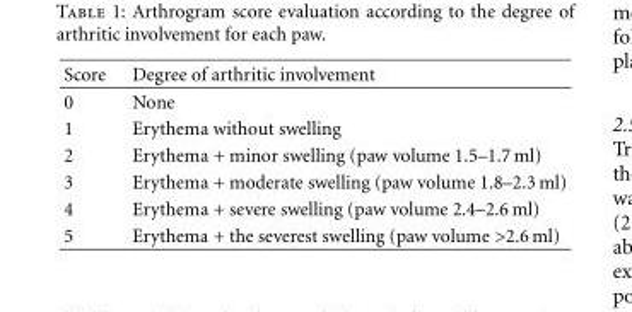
<table><thead><tr><td>Score</td><td>Degree of arthritic involvement</td></tr></thead><tbody><tr><td>0</td><td>None</td></tr><tr><td>1</td><td>Erythema without swelling</td></tr><tr><td>2</td><td>Erythema + minor swelling (paw volume 1.5–1.7 ml)</td></tr><tr><td>3</td><td>Erythema + moderate swelling (paw volume 1.8–2.3 ml)</td></tr><tr><td>4</td><td>Erythema + severe swelling (paw volume 2.4–2.6 ml)</td></tr><tr><td>5</td><td>Erythema + the severest swelling (paw volume &gt;2.6 ml)</td></tr></tbody></table>